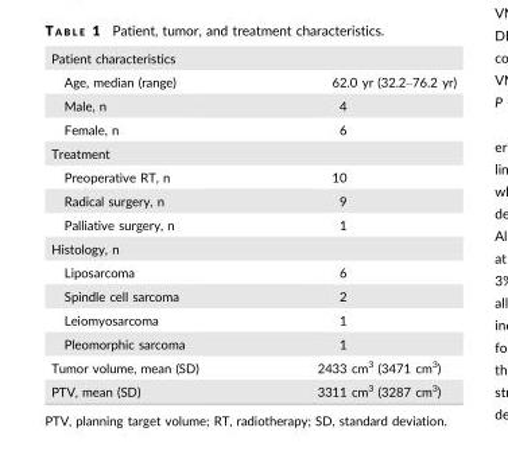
<table><tbody><tr><td colspan="2">Patient characteristics</td></tr><tr><td>Age, median (range)</td><td>62.0 yr (32.2–76.2 yr)</td></tr><tr><td>Male, n</td><td>4</td></tr><tr><td>Female, n</td><td>6</td></tr><tr><td colspan="2">Treatment</td></tr><tr><td>Preoperative RT, n</td><td>10</td></tr><tr><td>Radical surgery, n</td><td>9</td></tr><tr><td>Palliative surgery, n</td><td>1</td></tr><tr><td colspan="2">Histology, n</td></tr><tr><td>Liposarcoma</td><td>6</td></tr><tr><td>Spindle cell sarcoma</td><td>2</td></tr><tr><td>Leiomyosarcoma</td><td>1</td></tr><tr><td>Pleomorphic sarcoma</td><td>1</td></tr><tr><td>Tumor volume, mean (SD)</td><td>2433 cm<sup>3</sup> (3471 cm<sup>3</sup>)</td></tr><tr><td>PTV, mean (SD)</td><td>3311 cm<sup>3</sup> (3287 cm<sup>3</sup>)</td></tr></tbody></table>